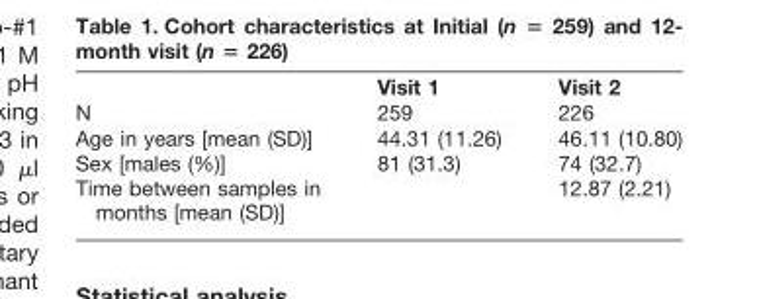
<table><thead><tr><td></td><td>Visit 1</td><td>Visit 2</td></tr></thead><tbody><tr><td>N</td><td>259</td><td>226</td></tr><tr><td>Age in years [mean (SD)]</td><td>44.31 (11.26)</td><td>46.11 (10.80)</td></tr><tr><td>Sex [males (%)]</td><td>81 (31.3)</td><td>74 (32.7)</td></tr><tr><td>Time between samples in months [mean (SD)]</td><td></td><td>12.87 (2.21)</td></tr></tbody></table>